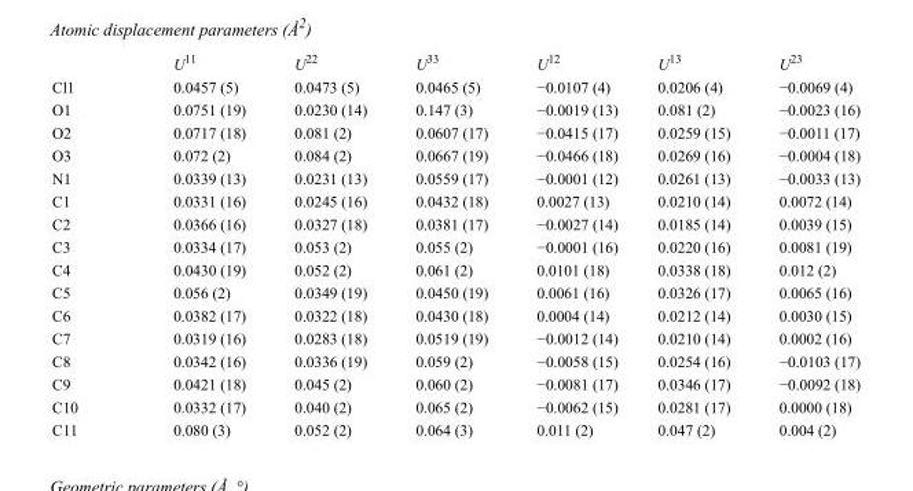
<table><thead><tr><td></td><td>U<sup>11</sup></td><td>U<sup>22</sup></td><td>U<sup>33</sup></td><td>U<sup>12</sup></td><td>U<sup>13</sup></td><td>U<sup>23</sup></td></tr></thead><tbody><tr><td>Cl1</td><td>0.0457 (5)</td><td>0.0473 (5)</td><td>0.0465 (5)</td><td>−0.0107 (4)</td><td>0.0206 (4)</td><td>−0.0069 (4)</td></tr><tr><td>O1</td><td>0.0751 (19)</td><td>0.0230 (14)</td><td>0.147 (3)</td><td>−0.0019 (13)</td><td>0.081 (2)</td><td>−0.0023 (16)</td></tr><tr><td>O2</td><td>0.0717 (18)</td><td>0.081 (2)</td><td>0.0607 (17)</td><td>−0.0415 (17)</td><td>0.0259 (15)</td><td>−0.0011 (17)</td></tr><tr><td>O3</td><td>0.072 (2)</td><td>0.084 (2)</td><td>0.0667 (19)</td><td>−0.0466 (18)</td><td>0.0269 (16)</td><td>−0.0004 (18)</td></tr><tr><td>N1</td><td>0.0339 (13)</td><td>0.0231 (13)</td><td>0.0559 (17)</td><td>−0.0001 (12)</td><td>0.0261 (13)</td><td>−0.0033 (13)</td></tr><tr><td>C1</td><td>0.0331 (16)</td><td>0.0245 (16)</td><td>0.0432 (18)</td><td>0.0027 (13)</td><td>0.0210 (14)</td><td>0.0072 (14)</td></tr><tr><td>C2</td><td>0.0366 (16)</td><td>0.0327 (18)</td><td>0.0381 (17)</td><td>−0.0027 (14)</td><td>0.0185 (14)</td><td>0.0039 (15)</td></tr><tr><td>C3</td><td>0.0334 (17)</td><td>0.053 (2)</td><td>0.055 (2)</td><td>−0.0001 (16)</td><td>0.0220 (16)</td><td>0.0081 (19)</td></tr><tr><td>C4</td><td>0.0430 (19)</td><td>0.052 (2)</td><td>0.061 (2)</td><td>0.0101 (18)</td><td>0.0338 (18)</td><td>0.012 (2)</td></tr><tr><td>C5</td><td>0.056 (2)</td><td>0.0349 (19)</td><td>0.0450 (19)</td><td>0.0061 (16)</td><td>0.0326 (17)</td><td>0.0065 (16)</td></tr><tr><td>C6</td><td>0.0382 (17)</td><td>0.0322 (18)</td><td>0.0430 (18)</td><td>0.0004 (14)</td><td>0.0212 (14)</td><td>0.0030 (15)</td></tr><tr><td>C7</td><td>0.0319 (16)</td><td>0.0283 (18)</td><td>0.0519 (19)</td><td>−0.0012 (14)</td><td>0.0210 (14)</td><td>0.0002 (16)</td></tr><tr><td>C8</td><td>0.0342 (16)</td><td>0.0336 (19)</td><td>0.059 (2)</td><td>−0.0058 (15)</td><td>0.0254 (16)</td><td>−0.0103 (17)</td></tr><tr><td>C9</td><td>0.0421 (18)</td><td>0.045 (2)</td><td>0.060 (2)</td><td>−0.0081 (17)</td><td>0.0346 (17)</td><td>−0.0092 (18)</td></tr><tr><td>C10</td><td>0.0332 (17)</td><td>0.040 (2)</td><td>0.065 (2)</td><td>−0.0062 (15)</td><td>0.0281 (17)</td><td>0.0000 (18)</td></tr><tr><td>C11</td><td>0.080 (3)</td><td>0.052 (2)</td><td>0.064 (3)</td><td>0.011 (2)</td><td>0.047 (2)</td><td>0.004 (2)</td></tr></tbody></table>